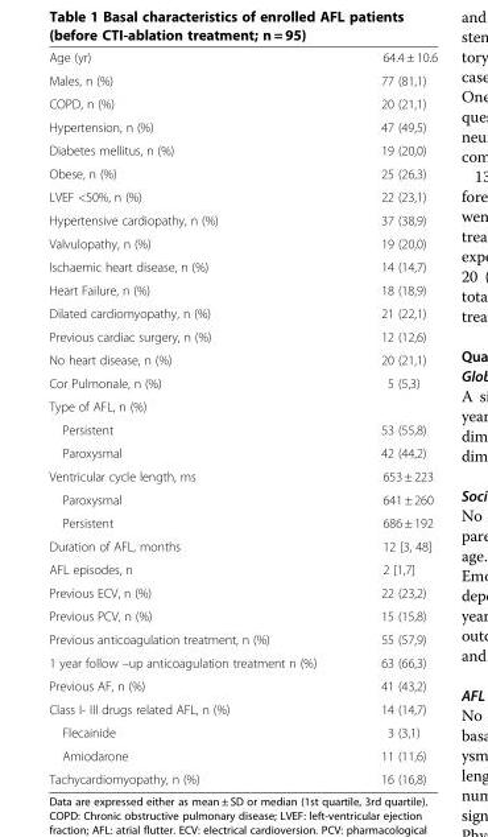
<table><tbody><tr><td>Age (yr)</td><td>64.4 ± 10.6</td></tr><tr><td>Males, n (%)</td><td>77 (81,1)</td></tr><tr><td>COPD, n (%)</td><td>20 (21,1)</td></tr><tr><td>Hypertension, n (%)</td><td>47 (49,5)</td></tr><tr><td>Diabetes mellitus, n (%)</td><td>19 (20,0)</td></tr><tr><td>Obese, n (%)</td><td>25 (26,3)</td></tr><tr><td>LVEF &lt;50%, n (%)</td><td>22 (23,1)</td></tr><tr><td>Hypertensive cardiopathy, n (%)</td><td>37 (38,9)</td></tr><tr><td>Valvulopathy, n (%)</td><td>19 (20,0)</td></tr><tr><td>Ischaemic heart disease, n (%)</td><td>14 (14,7)</td></tr><tr><td>Heart Failure, n (%)</td><td>18 (18,9)</td></tr><tr><td>Dilated cardiomyopathy, n (%)</td><td>21 (22,1)</td></tr><tr><td>Previous cardiac surgery, n (%)</td><td>12 (12,6)</td></tr><tr><td>No heart disease, n (%)</td><td>20 (21,1)</td></tr><tr><td>Cor Pulmonale, n (%)</td><td>5 (5,3)</td></tr><tr><td colspan="2">Type of AFL, n (%)</td></tr><tr><td>Persistent</td><td>53 (55,8)</td></tr><tr><td>Paroxysmal</td><td>42 (44,2)</td></tr><tr><td>Ventricular cycle length, ms</td><td>653 ± 223</td></tr><tr><td>Paroxysmal</td><td>641 ± 260</td></tr><tr><td>Persistent</td><td>686 ± 192</td></tr><tr><td>Duration of AFL, months</td><td>12 [3, 48]</td></tr><tr><td>AFL episodes, n</td><td>2 [1,7]</td></tr><tr><td>Previous ECV, n (%)</td><td>22 (23,2)</td></tr><tr><td>Previous PCV, n (%)</td><td>15 (15,8)</td></tr><tr><td>Previous anticoagulation treatment, n (%)</td><td>55 (57,9)</td></tr><tr><td>1 year follow –up anticoagulation treatment n (%)</td><td>63 (66,3)</td></tr><tr><td>Previous AF, n (%)</td><td>41 (43,2)</td></tr><tr><td>Class I- III drugs related AFL, n (%)</td><td>14 (14,7)</td></tr><tr><td>Flecainide</td><td>3 (3,1)</td></tr><tr><td>Amiodarone</td><td>11 (11,6)</td></tr><tr><td>Tachycardiomyopathy, n (%)</td><td>16 (16,8)</td></tr></tbody></table>